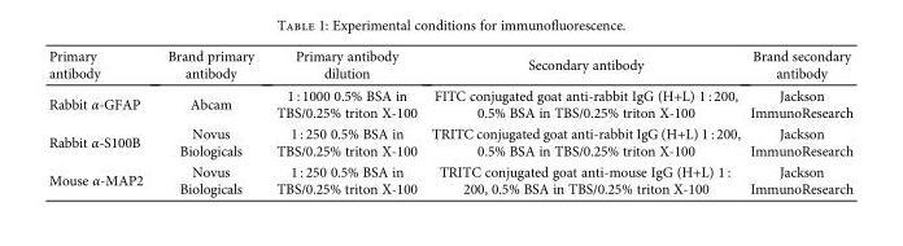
<table><thead><tr><td>Primary antibody</td><td>Brand primary antibody</td><td>Primary antibody dilution</td><td>Secondary antibody</td><td>Brand secondary antibody</td></tr></thead><tbody><tr><td>Rabbit α-GFAP</td><td>Abcam</td><td>1 : 1000 0.5% BSA in TBS/0.25% triton X-100</td><td>FITC conjugated goat anti-rabbit IgG (H+L) 1 : 200, 0.5% BSA in TBS/0.25% triton X-100</td><td>Jackson ImmunoResearch</td></tr><tr><td>Rabbit α-S100B</td><td>Novus Biologicals</td><td>1 : 250 0.5% BSA in TBS/0.25% triton X-100</td><td>TRITC conjugated goat anti-rabbit IgG (H+L) 1 : 200, 0.5% BSA in TBS/0.25% triton X-100</td><td>Jackson ImmunoResearch</td></tr><tr><td>Mouse α-MAP2</td><td>Novus Biologicals</td><td>1 : 250 0.5% BSA in TBS/0.25% triton X-100</td><td>TRITC conjugated goat anti-mouse IgG (H+L) 1 : 200, 0.5% BSA in TBS/0.25% triton X-100</td><td>Jackson ImmunoResearch</td></tr></tbody></table>